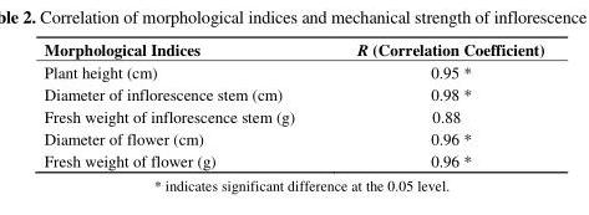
<table><thead><tr><td>Morphological Indices</td><td>R (Correlation Coefficient)</td></tr></thead><tbody><tr><td>Plant height (cm)</td><td>0.95 *</td></tr><tr><td>Diameter of inflorescence stem (cm)</td><td>0.98 *</td></tr><tr><td>Fresh weight of inflorescence stem (g)</td><td>0.88</td></tr><tr><td>Diameter of flower (cm)</td><td>0.96 *</td></tr><tr><td>Fresh weight of flower (g)</td><td>0.96 *</td></tr></tbody></table>